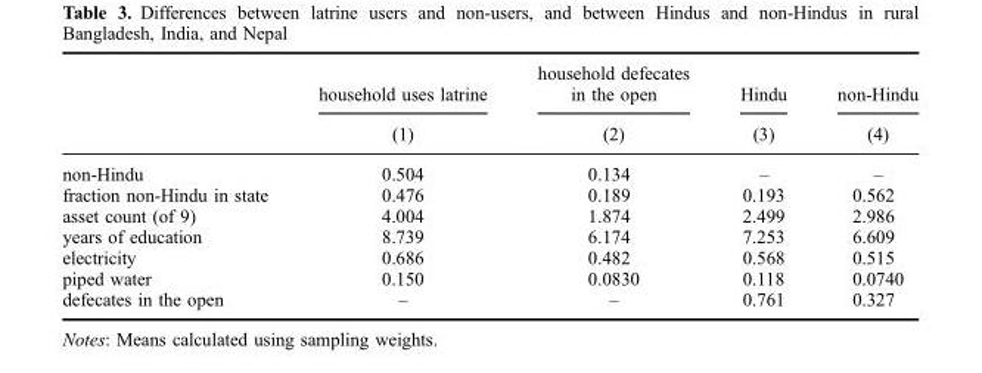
<table><thead><tr><td rowspan="2"></td><td rowspan="2">household uses latrine (1)</td><td rowspan="2">household defecates in the open (2)</td><td rowspan="2">Hindu (3)</td><td rowspan="2">non-Hindu (4)</td></tr><tr></tr></thead><tbody><tr><td>non-Hindu</td><td>0.504</td><td>0.134</td><td>–</td><td>–</td></tr><tr><td>fraction non-Hindu in state</td><td>0.476</td><td>0.189</td><td>0.193</td><td>0.562</td></tr><tr><td>asset count (of 9)</td><td>4.004</td><td>1.874</td><td>2.499</td><td>2.986</td></tr><tr><td>years of education</td><td>8.739</td><td>6.174</td><td>7.253</td><td>6.609</td></tr><tr><td>electricity</td><td>0.686</td><td>0.482</td><td>0.568</td><td>0.515</td></tr><tr><td>piped water</td><td>0.150</td><td>0.0830</td><td>0.118</td><td>0.0740</td></tr><tr><td>defecates in the open</td><td>–</td><td>–</td><td>0.761</td><td>0.327</td></tr></tbody></table>